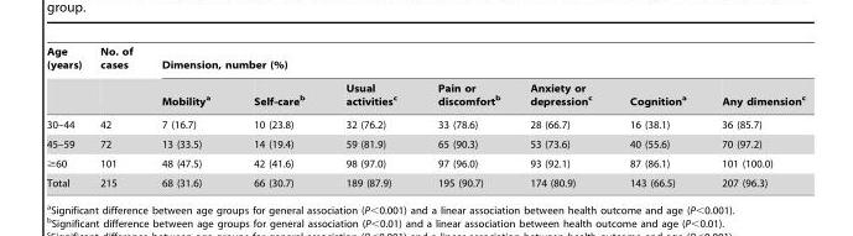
<table><thead><tr><td rowspan="2">Age (years)</td><td rowspan="2">No. of cases</td><td colspan="7">Dimension, number (%)</td></tr><tr><td>Mobility<sup>a</sup></td><td>Self-care<sup>b</sup></td><td>Usual activities<sup>c</sup></td><td>Pain or discomfort<sup>b</sup></td><td>Anxiety or depression<sup>c</sup></td><td>Cognition<sup>a</sup></td><td>Any dimension<sup>c</sup></td></tr></thead><tbody><tr><td>30–44</td><td>42</td><td>7 (16.7)</td><td>10 (23.8)</td><td>32 (76.2)</td><td>33 (78.6)</td><td>28 (66.7)</td><td>16 (38.1)</td><td>36 (85.7)</td></tr><tr><td>45–59</td><td>72</td><td>13 (33.5)</td><td>14 (19.4)</td><td>59 (81.9)</td><td>65 (90.3)</td><td>53 (73.6)</td><td>40 (55.6)</td><td>70 (97.2)</td></tr><tr><td>≥60</td><td>101</td><td>48 (47.5)</td><td>42 (41.6)</td><td>98 (97.0)</td><td>97 (96.0)</td><td>93 (92.1)</td><td>87 (86.1)</td><td>101 (100.0)</td></tr><tr><td>Total</td><td>215</td><td>68 (31.6)</td><td>66 (30.7)</td><td>189 (87.9)</td><td>195 (90.7)</td><td>174 (80.9)</td><td>143 (66.5)</td><td>207 (96.3)</td></tr></tbody></table>